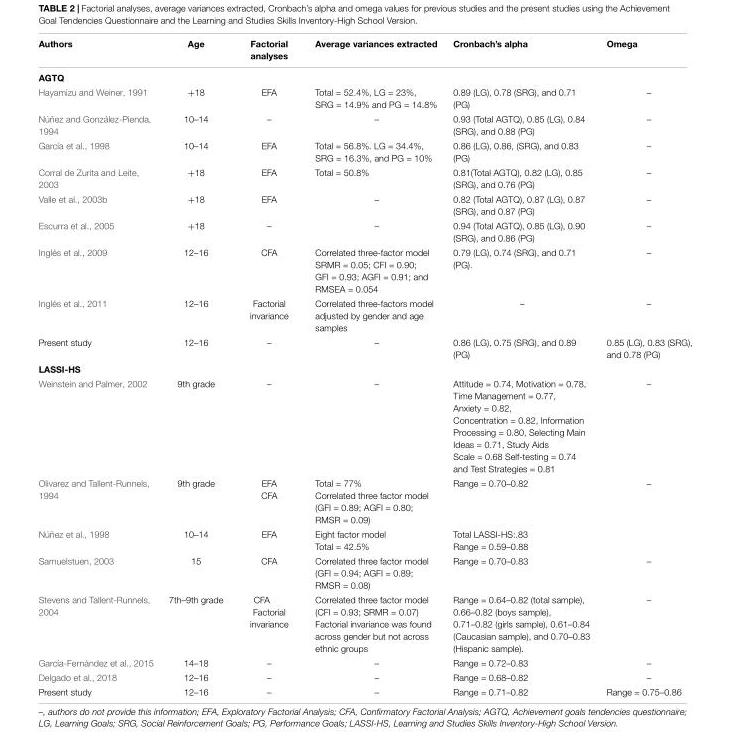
<table><thead><tr><td>Authors</td><td>Age</td><td>Factorial analyses</td><td>Average variances extracted</td><td>Cronbach’s alpha</td><td>Omega</td></tr></thead><tbody><tr><td colspan="6">AGTQ</td></tr><tr><td>Hayamizu and Weiner, 1991</td><td>+18</td><td>EFA</td><td>Total = 52.4%, LG = 23%, SRG = 14.9% and PG = 14.8%</td><td>0.89 (LG), 0.78 (SRG), and 0.71 (PG)</td><td>–</td></tr><tr><td>Núñez and González-Pienda, 1994</td><td>10–14</td><td>–</td><td>–</td><td>0.93 (Total AGTQ), 0.85 (LG), 0.84 (SRG), and 0.88 (PG)</td><td>–</td></tr><tr><td>García et al., 1998</td><td>10–14</td><td>EFA</td><td>Total = 56.8%. LG = 34.4%, SRG = 16.3%, and PG = 10%</td><td>0.86 (LG), 0.86, (SRG), and 0.83 (PG)</td><td>–</td></tr><tr><td>Corral de Zurita and Leite, 2003</td><td>+18</td><td>EFA</td><td>Total = 50.8%</td><td>0.81(Total AGTQ), 0.82 (LG), 0.85 (SRG), and 0.76 (PG)</td><td>–</td></tr><tr><td>Valle et al., 2003b</td><td>+18</td><td>EFA</td><td>–</td><td>0.82 (Total AGTQ), 0.87 (LG), 0.87 (SRG), and 0.87 (PG)</td><td>–</td></tr><tr><td>Escurra et al., 2005</td><td>+18</td><td>–</td><td>–</td><td>0.94 (Total AGTQ), 0.85 (LG), 0.90 (SRG), and 0.86 (PG)</td><td>–</td></tr><tr><td>Inglés et al., 2009</td><td>12–16</td><td>CFA</td><td>Correlated three-factor model SRMR = 0.05; CFI = 0.90; GFI = 0.93; AGFI = 0.91; and RMSEA = 0.054</td><td>0.79 (LG), 0.74 (SRG), and 0.71 (PG).</td><td>–</td></tr><tr><td>Inglés et al., 2011</td><td>12–16</td><td>Factorial invariance</td><td>Correlated three-factors model adjusted by gender and age samples</td><td>–</td><td>–</td></tr><tr><td>Present study</td><td>12–16</td><td>–</td><td>–</td><td>0.86 (LG), 0.75 (SRG), and 0.89 (PG)</td><td>0.85 (LG), 0.83 (SRG), and 0.78 (PG)</td></tr><tr><td colspan="6">LASSI-HS</td></tr><tr><td>Weinstein and Palmer, 2002</td><td>9th grade</td><td>–</td><td>–</td><td>Attitude = 0.74, Motivation = 0.78, Time Management = 0.77, Anxiety = 0.82, Concentration = 0.82, Information Processing = 0.80, Selecting Main Ideas = 0.71, Study Aids Scale = 0.68 Self-testing = 0.74 and Test Strategies = 0.81</td><td>–</td></tr><tr><td>Olivarez and Tallent-Runnels, 1994</td><td>9th grade</td><td>EFA CFA</td><td>Total = 77% Correlated three factor model (GFI = 0.89; AGFI = 0.80; RMSR = 0.09)</td><td>Range = 0.70–0.82</td><td>–</td></tr><tr><td>Núñez et al., 1998</td><td>10–14</td><td>EFA</td><td>Eight factor model Total = 42.5%</td><td>Total LASSI-HS:.83 Range = 0.59–0.88</td><td></td></tr><tr><td>Samuelstuen, 2003</td><td>15</td><td>CFA</td><td>Correlated three factor model (GFI = 0.94; AGFI = 0.89; RMSR = 0.08)</td><td>Range = 0.70–0.83</td><td>–</td></tr><tr><td>Stevens and Tallent-Runnels, 2004</td><td>7th–9th grade</td><td>CFA Factorial invariance</td><td>Correlated three factor model (CFI = 0.93; SRMR = 0.07) Factorial invariance was found across gender but not across ethnic groups</td><td>Range = 0.64–0.82 (total sample), 0.66–0.82 (boys sample), 0.71–0.82 (girls sample), 0.61–0.84 (Caucasian sample), and 0.70–0.83 (Hispanic sample).</td><td>–</td></tr><tr><td>García-Fernández et al., 2015</td><td>14–18</td><td>–</td><td>–</td><td>Range = 0.72–0.83</td><td>–</td></tr><tr><td>Delgado et al., 2018</td><td>12–16</td><td>–</td><td>–</td><td>Range = 0.68–0.82</td><td>–</td></tr><tr><td>Present study</td><td>12–16</td><td>–</td><td>–</td><td>Range = 0.71–0.82</td><td>Range = 0.75–0.86</td></tr></tbody></table>